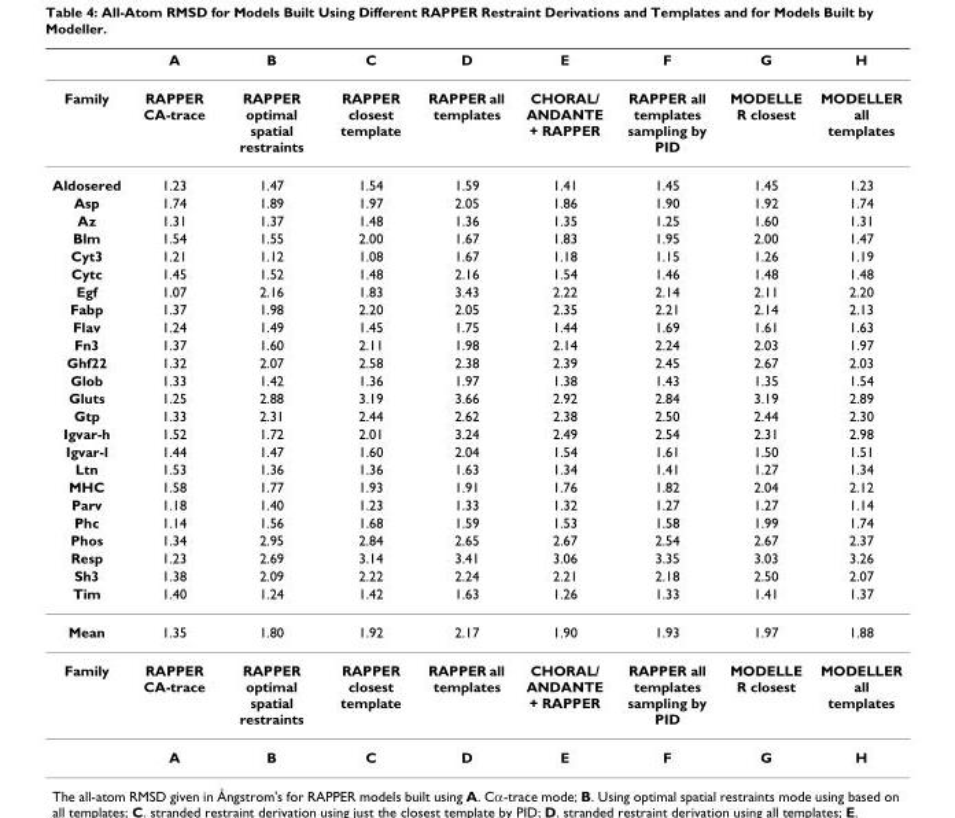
<table><thead><tr><td></td><td>A</td><td>B</td><td>C</td><td>D</td><td>E</td><td>F</td><td>G</td><td>H</td></tr></thead><tbody><tr><td>Family</td><td>RAPPER CA-trace</td><td>RAPPER optimal spatial restraints</td><td>RAPPER closest template</td><td>RAPPER all templates</td><td>CHORAL/ ANDANTE + RAPPER</td><td>RAPPER all templates sampling by PID</td><td>MODELLE R closest</td><td>MODELLER all templates</td></tr><tr><td>Aldosered</td><td>1.23</td><td>1.47</td><td>1.54</td><td>1.59</td><td>1.41</td><td>1.45</td><td>1.45</td><td>1.23</td></tr><tr><td>Asp</td><td>1.74</td><td>1.89</td><td>1.97</td><td>2.05</td><td>1.86</td><td>1.90</td><td>1.92</td><td>1.74</td></tr><tr><td>Az</td><td>1.31</td><td>1.37</td><td>1.48</td><td>1.36</td><td>1.35</td><td>1.25</td><td>1.60</td><td>1.31</td></tr><tr><td>Blm</td><td>1.54</td><td>1.55</td><td>2.00</td><td>1.67</td><td>1.83</td><td>1.95</td><td>2.00</td><td>1.47</td></tr><tr><td>Cyt3</td><td>1.21</td><td>1.12</td><td>1.08</td><td>1.67</td><td>1.18</td><td>1.15</td><td>1.26</td><td>1.19</td></tr><tr><td>Cytc</td><td>1.45</td><td>1.52</td><td>1.48</td><td>2.16</td><td>1.54</td><td>1.46</td><td>1.48</td><td>1.48</td></tr><tr><td>Egf</td><td>1.07</td><td>2.16</td><td>1.83</td><td>3.43</td><td>2.22</td><td>2.14</td><td>2.11</td><td>2.20</td></tr><tr><td>Fabp</td><td>1.37</td><td>1.98</td><td>2.20</td><td>2.05</td><td>2.35</td><td>2.21</td><td>2.14</td><td>2.13</td></tr><tr><td>Flav</td><td>1.24</td><td>1.49</td><td>1.45</td><td>1.75</td><td>1.44</td><td>1.69</td><td>1.61</td><td>1.63</td></tr><tr><td>Fn3</td><td>1.37</td><td>1.60</td><td>2.11</td><td>1.98</td><td>2.14</td><td>2.24</td><td>2.03</td><td>1.97</td></tr><tr><td>Ghf22</td><td>1.32</td><td>2.07</td><td>2.58</td><td>2.38</td><td>2.39</td><td>2.45</td><td>2.67</td><td>2.03</td></tr><tr><td>Glob</td><td>1.33</td><td>1.42</td><td>1.36</td><td>1.97</td><td>1.38</td><td>1.43</td><td>1.35</td><td>1.54</td></tr><tr><td>Gluts</td><td>1.25</td><td>2.88</td><td>3.19</td><td>3.66</td><td>2.92</td><td>2.84</td><td>3.19</td><td>2.89</td></tr><tr><td>Gtp</td><td>1.33</td><td>2.31</td><td>2.44</td><td>2.62</td><td>2.38</td><td>2.50</td><td>2.44</td><td>2.30</td></tr><tr><td>Igvar-h</td><td>1.52</td><td>1.72</td><td>2.01</td><td>3.24</td><td>2.49</td><td>2.54</td><td>2.31</td><td>2.98</td></tr><tr><td>Igvar-l</td><td>1.44</td><td>1.47</td><td>1.60</td><td>2.04</td><td>1.54</td><td>1.61</td><td>1.50</td><td>1.51</td></tr><tr><td>Ltn</td><td>1.53</td><td>1.36</td><td>1.36</td><td>1.63</td><td>1.34</td><td>1.41</td><td>1.27</td><td>1.34</td></tr><tr><td>MHC</td><td>1.58</td><td>1.77</td><td>1.93</td><td>1.91</td><td>1.76</td><td>1.82</td><td>2.04</td><td>2.12</td></tr><tr><td>Parv</td><td>1.18</td><td>1.40</td><td>1.23</td><td>1.33</td><td>1.32</td><td>1.27</td><td>1.27</td><td>1.14</td></tr><tr><td>Phc</td><td>1.14</td><td>1.56</td><td>1.68</td><td>1.59</td><td>1.53</td><td>1.58</td><td>1.99</td><td>1.74</td></tr><tr><td>Phos</td><td>1.34</td><td>2.95</td><td>2.84</td><td>2.65</td><td>2.67</td><td>2.54</td><td>2.67</td><td>2.37</td></tr><tr><td>Resp</td><td>1.23</td><td>2.69</td><td>3.14</td><td>3.41</td><td>3.06</td><td>3.35</td><td>3.03</td><td>3.26</td></tr><tr><td>Sh3</td><td>1.38</td><td>2.09</td><td>2.22</td><td>2.24</td><td>2.21</td><td>2.18</td><td>2.50</td><td>2.07</td></tr><tr><td>Tim</td><td>1.40</td><td>1.24</td><td>1.42</td><td>1.63</td><td>1.26</td><td>1.33</td><td>1.41</td><td>1.37</td></tr><tr><td>Mean</td><td>1.35</td><td>1.80</td><td>1.92</td><td>2.17</td><td>1.90</td><td>1.93</td><td>1.97</td><td>1.88</td></tr><tr><td rowspan="2">Family</td><td>RAPPER CA-trace</td><td>RAPPER optimal spatial restraints</td><td>RAPPER closest template</td><td>RAPPER all templates</td><td>CHORAL/ ANDANTE + RAPPER</td><td>RAPPER all templates sampling by PID</td><td>MODELLE R closest</td><td>MODELLER all templates</td></tr><tr><td>A</td><td>B</td><td>C</td><td>D</td><td>E</td><td>F</td><td>G</td><td>H</td></tr></tbody></table>